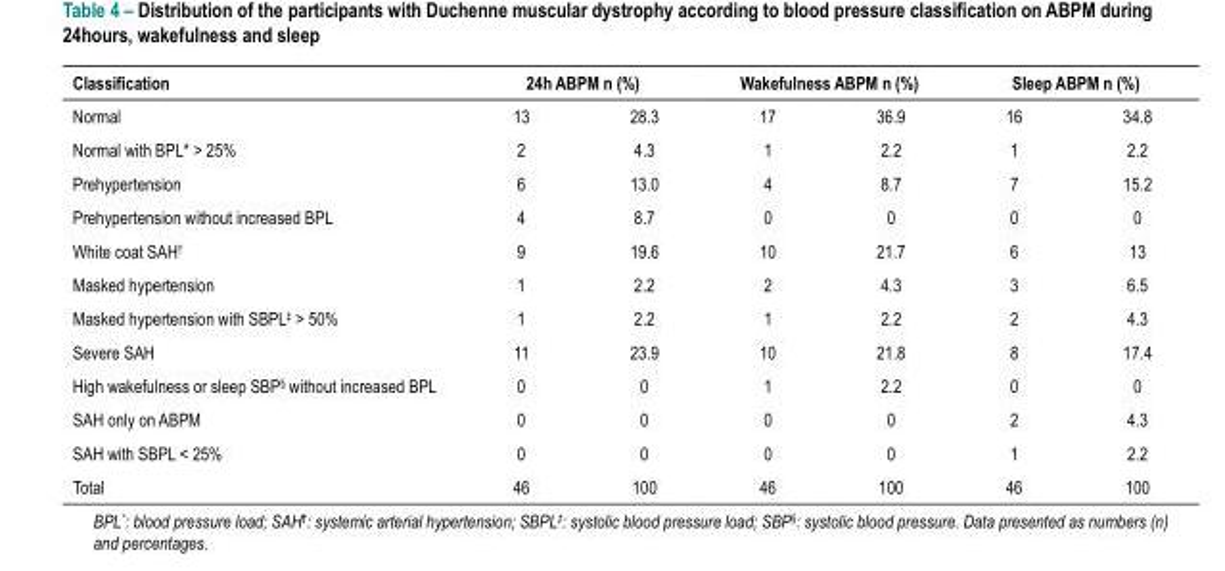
<table><thead><tr><td rowspan="2">Classification Normal</td><td colspan="2">24h ABPM n (%)</td><td colspan="2">Wakefulness ABPM n (%)</td><td colspan="2">Sleep ABPM n (%)</td></tr><tr><td>13</td><td>28.3</td><td>17</td><td>36.9</td><td>16</td><td>34.8</td></tr></thead><tbody><tr><td>Normal with BPL* &gt; 25%</td><td>2</td><td>4.3</td><td>1</td><td>2.2</td><td>1</td><td>2.2</td></tr><tr><td>Prehypertension</td><td>6</td><td>13.0</td><td>4</td><td>8.7</td><td>7</td><td>15.2</td></tr><tr><td>Prehypertension without increased BPL</td><td>4</td><td>8.7</td><td>0</td><td>0</td><td>0</td><td>0</td></tr><tr><td>White coat SAH<sup>†</sup></td><td>9</td><td>19.6</td><td>10</td><td>21.7</td><td>6</td><td>13</td></tr><tr><td>Masked hypertension</td><td>1</td><td>2.2</td><td>2</td><td>4.3</td><td>3</td><td>6.5</td></tr><tr><td>Masked hypertension with SBPL<sup>‡</sup> &gt; 50%</td><td>1</td><td>2.2</td><td>1</td><td>2.2</td><td>2</td><td>4.3</td></tr><tr><td>Severe SAH</td><td>11</td><td>23.9</td><td>10</td><td>21.8</td><td>8</td><td>17.4</td></tr><tr><td>High wakefulness or sleep SBP<sup>§</sup> without increased BPL</td><td>0</td><td>0</td><td>1</td><td>2.2</td><td>0</td><td>0</td></tr><tr><td>SAH only on ABPM</td><td>0</td><td>0</td><td>0</td><td>0</td><td>2</td><td>4.3</td></tr><tr><td>SAH with SBPL &lt; 25%</td><td>0</td><td>0</td><td>0</td><td>0</td><td>1</td><td>2.2</td></tr><tr><td>Total</td><td>46</td><td>100</td><td>46</td><td>100</td><td>46</td><td>100</td></tr></tbody></table>